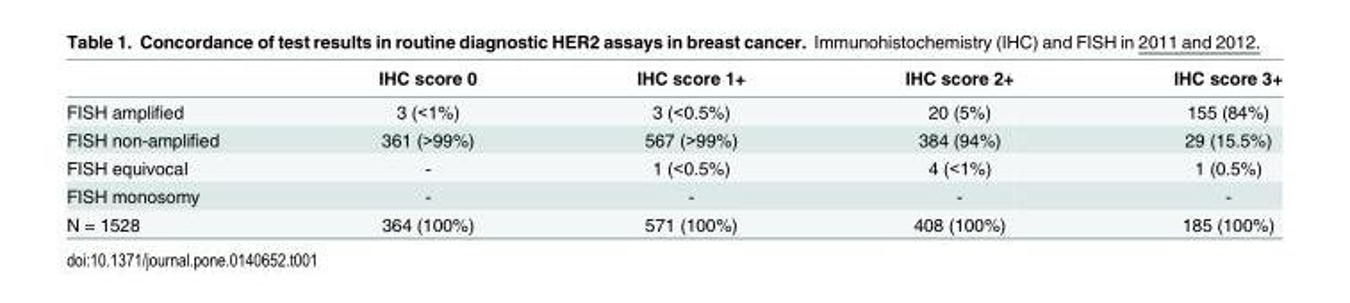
<table><thead><tr><td></td><td>IHC score 0</td><td>IHC score 1+</td><td>IHC score 2+</td><td>IHC score 3+</td></tr></thead><tbody><tr><td>FISH amplified</td><td>3 (&lt;1%)</td><td>3 (&lt;0.5%)</td><td>20 (5%)</td><td>155 (84%)</td></tr><tr><td>FISH non-amplified</td><td>361 (&gt;99%)</td><td>567 (&gt;99%)</td><td>384 (94%)</td><td>29 (15.5%)</td></tr><tr><td>FISH equivocal</td><td>-</td><td>1 (&lt;0.5%)</td><td>4 (&lt;1%)</td><td>1 (0.5%)</td></tr><tr><td>FISH monosomy</td><td>-</td><td>-</td><td>-</td><td>-</td></tr><tr><td>N = 1528</td><td>364 (100%)</td><td>571 (100%)</td><td>408 (100%)</td><td>185 (100%)</td></tr></tbody></table>